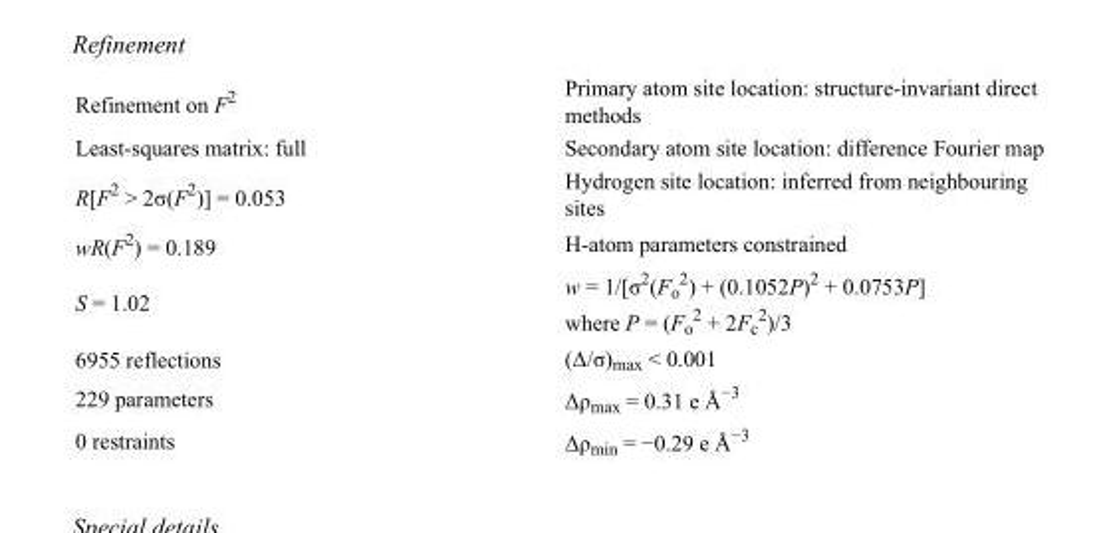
<table><tbody><tr><td>Refinement on F<sup>2</sup></td><td>Primary atom site location: structure-invariant direct methods</td></tr><tr><td>Least-squares matrix: full</td><td>Secondary atom site location: difference Fourier map</td></tr><tr><td>R[F<sup>2</sup> &gt; 2σ(F<sup>2</sup>)] = 0.053</td><td>Hydrogen site location: inferred from neighbouring sites</td></tr><tr><td>wR(F<sup>2</sup>) = 0.189</td><td>H-atom parameters constrained</td></tr><tr><td>S = 1.02</td><td>w = 1/[σ<sup>2</sup>(F<sub>o</sub> <sup>2</sup>) + (0.1052P)<sup>2</sup> + 0.0753P] where P = (F<sub>o</sub> <sup>2</sup> + 2F<sub>c</sub> <sup>2</sup>)/3</td></tr><tr><td>6955 reflections</td><td>(Δ/σ)<sub>max</sub> &lt; 0.001</td></tr><tr><td>229 parameters</td><td>Δρ<sub>max</sub> = 0.31 e Å<sup>−3</sup></td></tr><tr><td>0 restraints</td><td>Δρ<sub>min</sub> = −0.29 e Å<sup>−3</sup></td></tr></tbody></table>